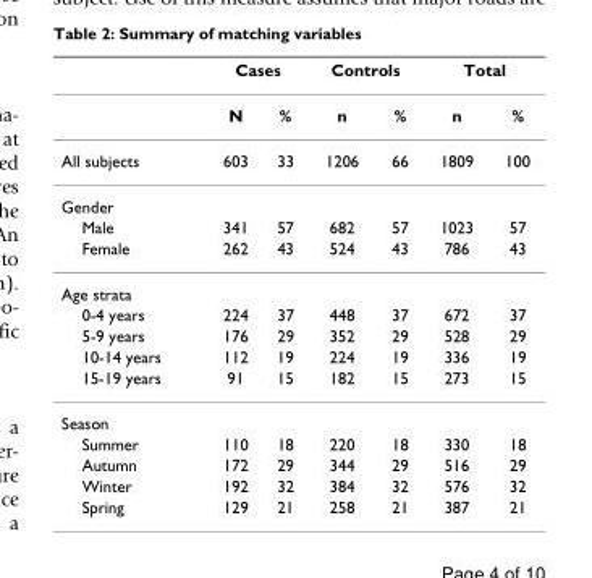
<table><thead><tr><td rowspan="2"></td><td colspan="2">Cases</td><td colspan="2">Controls</td><td colspan="2">Total</td></tr><tr><td>N</td><td>%</td><td>n</td><td>%</td><td>n</td><td>%</td></tr></thead><tbody><tr><td>All subjects</td><td>603</td><td>33</td><td>1206</td><td>66</td><td>1809</td><td>100</td></tr><tr><td colspan="7">Gender</td></tr><tr><td>Male</td><td>341</td><td>57</td><td>682</td><td>57</td><td>1023</td><td>57</td></tr><tr><td>Female</td><td>262</td><td>43</td><td>524</td><td>43</td><td>786</td><td>43</td></tr><tr><td colspan="7">Age strata</td></tr><tr><td>0-4 years</td><td>224</td><td>37</td><td>448</td><td>37</td><td>672</td><td>37</td></tr><tr><td>5-9 years</td><td>176</td><td>29</td><td>352</td><td>29</td><td>528</td><td>29</td></tr><tr><td>10-14 years</td><td>112</td><td>19</td><td>224</td><td>19</td><td>336</td><td>19</td></tr><tr><td>15-19 years</td><td>91</td><td>15</td><td>182</td><td>15</td><td>273</td><td>15</td></tr><tr><td colspan="7">Season</td></tr><tr><td>Summer</td><td>110</td><td>18</td><td>220</td><td>18</td><td>330</td><td>18</td></tr><tr><td>Autumn</td><td>172</td><td>29</td><td>344</td><td>29</td><td>516</td><td>29</td></tr><tr><td>Winter</td><td>192</td><td>32</td><td>384</td><td>32</td><td>576</td><td>32</td></tr><tr><td>Spring</td><td>129</td><td>21</td><td>258</td><td>21</td><td>387</td><td>21</td></tr></tbody></table>